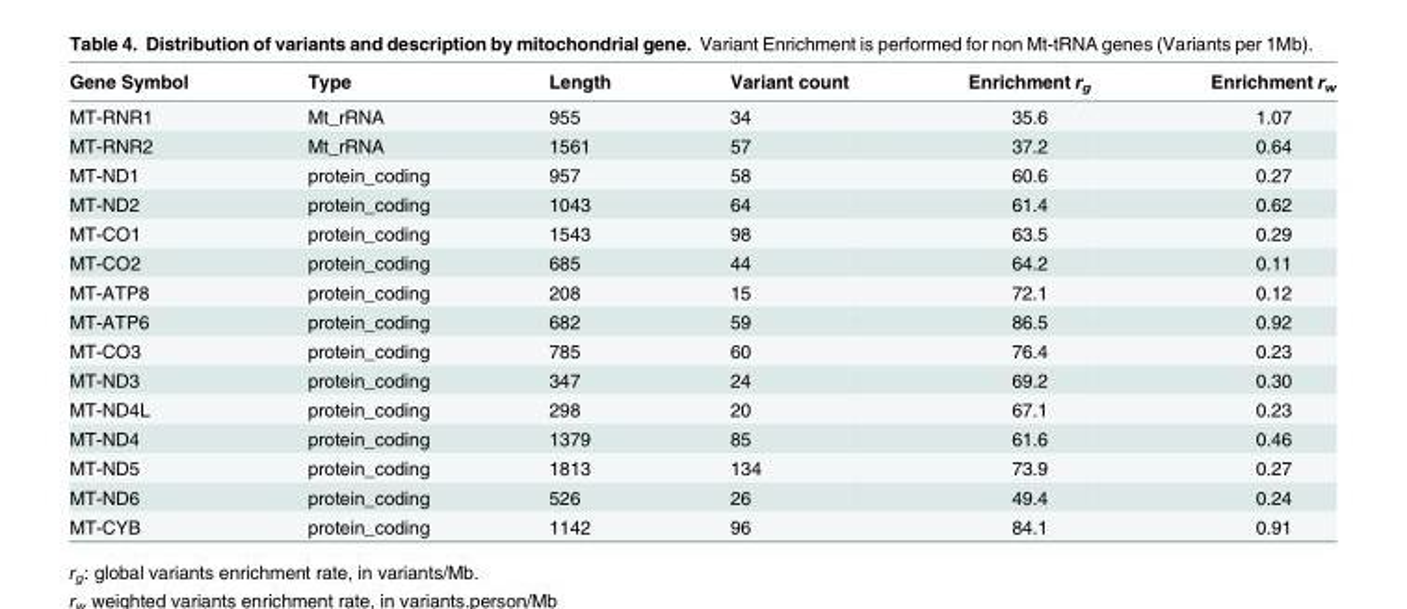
<table><thead><tr><td>Gene Symbol</td><td>Type</td><td>Length</td><td>Variant count</td><td>Enrichment r<sub>g</sub></td><td>Enrichment r<sub>w</sub></td></tr></thead><tbody><tr><td>MT-RNR1</td><td>Mt_rRNA</td><td>955</td><td>34</td><td>35.6</td><td>1.07</td></tr><tr><td>MT-RNR2</td><td>Mt_rRNA</td><td>1561</td><td>57</td><td>37.2</td><td>0.64</td></tr><tr><td>MT-ND1</td><td>protein_coding</td><td>957</td><td>58</td><td>60.6</td><td>0.27</td></tr><tr><td>MT-ND2</td><td>protein_coding</td><td>1043</td><td>64</td><td>61.4</td><td>0.62</td></tr><tr><td>MT-CO1</td><td>protein_coding</td><td>1543</td><td>98</td><td>63.5</td><td>0.29</td></tr><tr><td>MT-CO2</td><td>protein_coding</td><td>685</td><td>44</td><td>64.2</td><td>0.11</td></tr><tr><td>MT-ATP8</td><td>protein_coding</td><td>208</td><td>15</td><td>72.1</td><td>0.12</td></tr><tr><td>MT-ATP6</td><td>protein_coding</td><td>682</td><td>59</td><td>86.5</td><td>0.92</td></tr><tr><td>MT-CO3</td><td>protein_coding</td><td>785</td><td>60</td><td>76.4</td><td>0.23</td></tr><tr><td>MT-ND3</td><td>protein_coding</td><td>347</td><td>24</td><td>69.2</td><td>0.30</td></tr><tr><td>MT-ND4L</td><td>protein_coding</td><td>298</td><td>20</td><td>67.1</td><td>0.23</td></tr><tr><td>MT-ND4</td><td>protein_coding</td><td>1379</td><td>85</td><td>61.6</td><td>0.46</td></tr><tr><td>MT-ND5</td><td>protein_coding</td><td>1813</td><td>134</td><td>73.9</td><td>0.27</td></tr><tr><td>MT-ND6</td><td>protein_coding</td><td>526</td><td>26</td><td>49.4</td><td>0.24</td></tr><tr><td>MT-CYB</td><td>protein_coding</td><td>1142</td><td>96</td><td>84.1</td><td>0.91</td></tr></tbody></table>